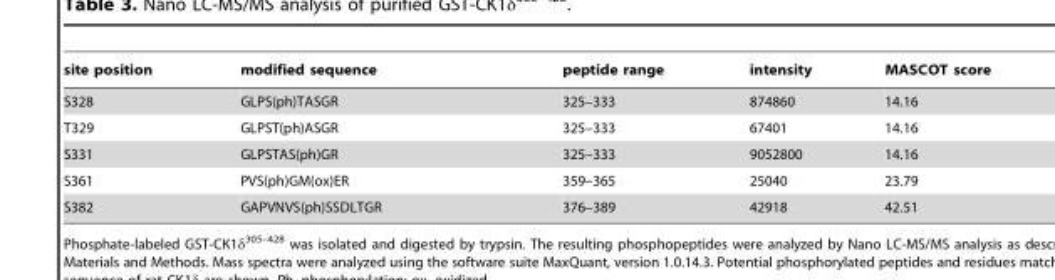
<table><thead><tr><td>site position</td><td>modified sequence</td><td>peptide range</td><td>intensity</td><td>MASCOT score</td></tr></thead><tbody><tr><td>S328</td><td>GLPS(ph)TASGR</td><td>325–333</td><td>874860</td><td>14.16</td></tr><tr><td>T329</td><td>GLPST(ph)ASGR</td><td>325–333</td><td>67401</td><td>14.16</td></tr><tr><td>S331</td><td>GLPSTAS(ph)GR</td><td>325–333</td><td>9052800</td><td>14.16</td></tr><tr><td>S361</td><td>PVS(ph)GM(ox)ER</td><td>359–365</td><td>25040</td><td>23.79</td></tr><tr><td>S382</td><td>GAPVNVS(ph)SSDLTGR</td><td>376–389</td><td>42918</td><td>42.51</td></tr></tbody></table>